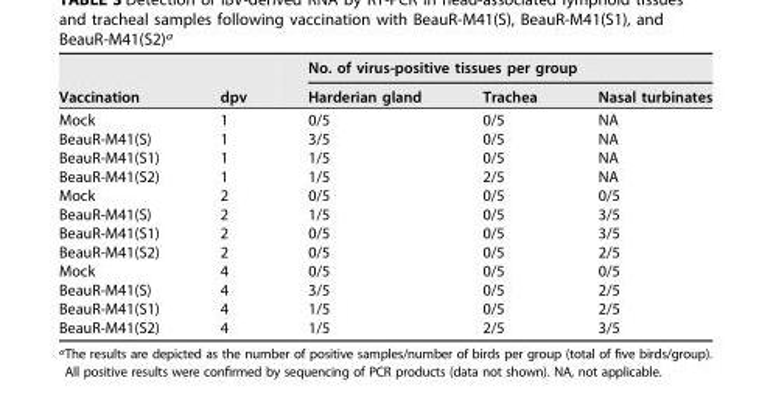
<table><thead><tr><td rowspan="2">Vaccination</td><td rowspan="2">dpv</td><td colspan="3">No. of virus-positive tissues per group</td></tr><tr><td>Harderian gland</td><td>Trachea</td><td>Nasal turbinates</td></tr></thead><tbody><tr><td>Mock</td><td>1</td><td>0/5</td><td>0/5</td><td>NA</td></tr><tr><td>BeauR-M41(S)</td><td>1</td><td>3/5</td><td>0/5</td><td>NA</td></tr><tr><td>BeauR-M41(S1)</td><td>1</td><td>1/5</td><td>0/5</td><td>NA</td></tr><tr><td>BeauR-M41(S2)</td><td>1</td><td>1/5</td><td>2/5</td><td>NA</td></tr><tr><td>Mock</td><td>2</td><td>0/5</td><td>0/5</td><td>0/5</td></tr><tr><td>BeauR-M41(S)</td><td>2</td><td>1/5</td><td>0/5</td><td>3/5</td></tr><tr><td>BeauR-M41(S1)</td><td>2</td><td>0/5</td><td>0/5</td><td>3/5</td></tr><tr><td>BeauR-M41(S2)</td><td>2</td><td>0/5</td><td>0/5</td><td>2/5</td></tr><tr><td>Mock</td><td>4</td><td>0/5</td><td>0/5</td><td>0/5</td></tr><tr><td>BeauR-M41(S)</td><td>4</td><td>3/5</td><td>0/5</td><td>2/5</td></tr><tr><td>BeauR-M41(S1)</td><td>4</td><td>1/5</td><td>0/5</td><td>2/5</td></tr><tr><td>BeauR-M41(S2)</td><td>4</td><td>1/5</td><td>2/5</td><td>3/5</td></tr></tbody></table>